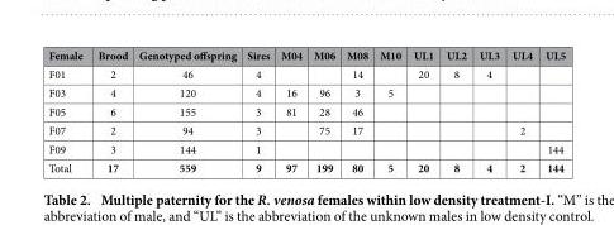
<table><thead><tr><td>Female</td><td>Brood</td><td>Genotyped offspring</td><td>Sires</td><td>M04</td><td>M06</td><td>M08</td><td>M10</td><td>UL1</td><td>UL2</td><td>UL3</td><td>UL4</td><td>UL5</td></tr></thead><tbody><tr><td>F01</td><td>2</td><td>46</td><td>4</td><td></td><td></td><td>14</td><td></td><td>20</td><td>8</td><td>4</td><td></td><td></td></tr><tr><td>F03</td><td>4</td><td>120</td><td>4</td><td>16</td><td>96</td><td>3</td><td>5</td><td></td><td></td><td></td><td></td><td></td></tr><tr><td>F05</td><td>6</td><td>155</td><td>3</td><td>81</td><td>28</td><td>46</td><td></td><td></td><td></td><td></td><td></td><td></td></tr><tr><td>F07</td><td>2</td><td>94</td><td>3</td><td></td><td>75</td><td>17</td><td></td><td></td><td></td><td></td><td>2</td><td></td></tr><tr><td>F09</td><td>3</td><td>144</td><td>1</td><td></td><td></td><td></td><td></td><td></td><td></td><td></td><td></td><td>144</td></tr><tr><td>Total</td><td>17</td><td>559</td><td>9</td><td>97</td><td>199</td><td>80</td><td>5</td><td>20</td><td>8</td><td>4</td><td>2</td><td>144</td></tr></tbody></table>